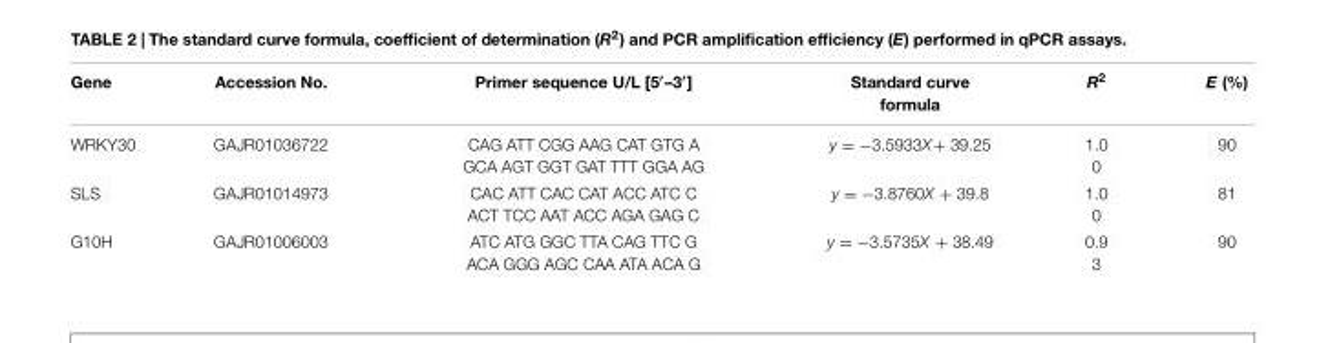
<table><thead><tr><td>Gene</td><td>Accession No.</td><td>Primer sequence U/L [5′–3′]</td><td>Standard curve formula</td><td>R<sup>2</sup></td><td>E (%)</td></tr></thead><tbody><tr><td>WRKY30</td><td>GAJR01036722</td><td>CAG ATT CGG AAG CAT GTG A GCA AGT GGT GAT TTT GGA AG</td><td>y = −3.5933X+ 39.25</td><td>1.0 0</td><td>90</td></tr><tr><td>SLS</td><td>GAJR01014973</td><td>CAC ATT CAC CAT ACC ATC C ACT TCC AAT ACC AGA GAG C</td><td>y = −3.8760X + 39.8</td><td>1.0 0</td><td>81</td></tr><tr><td>G10H</td><td>GAJR01006003</td><td>ATC ATG GGC TTA CAG TTC G ACA GGG AGC CAA ATA ACA G</td><td>y = −3.5735X + 38.49</td><td>0.9 3</td><td>90</td></tr></tbody></table>